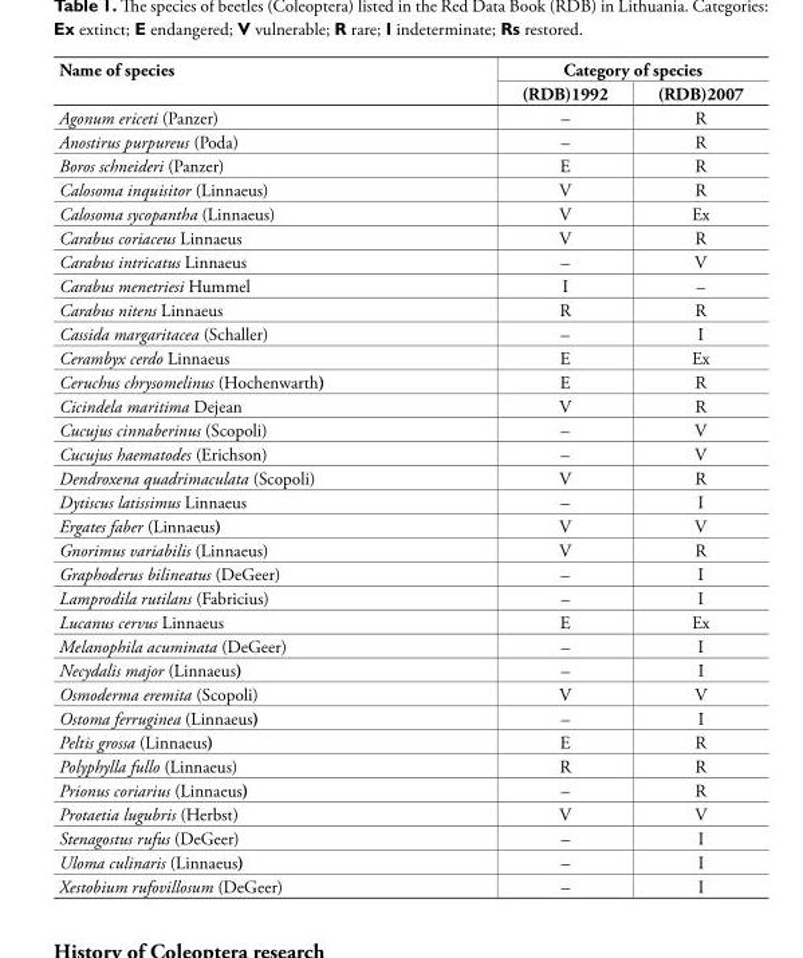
<table><thead><tr><td rowspan="2">Name of species</td><td colspan="2">Category of species</td></tr><tr><td>(RDB)1992</td><td>(RDB)2007</td></tr></thead><tbody><tr><td>Agonum ericeti (Panzer)</td><td>–</td><td>R</td></tr><tr><td>Anostirus purpureus (Poda)</td><td>–</td><td>R</td></tr><tr><td>Boros schneideri (Panzer)</td><td>E</td><td>R</td></tr><tr><td>Calosoma inquisitor (Linnaeus)</td><td>V</td><td>R</td></tr><tr><td>Calosoma sycopantha (Linnaeus)</td><td>V</td><td>Ex</td></tr><tr><td>Carabus coriaceus Linnaeus</td><td>V</td><td>R</td></tr><tr><td>Carabus intricatus Linnaeus</td><td>–</td><td>V</td></tr><tr><td>Carabus menetriesi Hummel</td><td>I</td><td>–</td></tr><tr><td>Carabus nitens Linnaeus</td><td>R</td><td>R</td></tr><tr><td>Cassida margaritacea (Schaller)</td><td>–</td><td>I</td></tr><tr><td>Cerambyx cerdo Linnaeus</td><td>E</td><td>Ex</td></tr><tr><td>Ceruchus chrysomelinus (Hochenwarth)</td><td>E</td><td>R</td></tr><tr><td>Cicindela maritima Dejean</td><td>V</td><td>R</td></tr><tr><td>Cucujus cinnaberinus (Scopoli)</td><td>–</td><td>V</td></tr><tr><td>Cucujus haematodes (Erichson)</td><td>–</td><td>V</td></tr><tr><td>Dendroxena quadrimaculata (Scopoli)</td><td>V</td><td>R</td></tr><tr><td>Dytiscus latissimus Linnaeus</td><td>–</td><td>I</td></tr><tr><td>Ergates faber (Linnaeus)</td><td>V</td><td>V</td></tr><tr><td>Gnorimus variabilis (Linnaeus)</td><td>V</td><td>R</td></tr><tr><td>Graphoderus bilineatus (DeGeer)</td><td>–</td><td>I</td></tr><tr><td>Lamprodila rutilans (Fabricius)</td><td>–</td><td>I</td></tr><tr><td>Lucanus cervus Linnaeus</td><td>E</td><td>Ex</td></tr><tr><td>Melanophila acuminata (DeGeer)</td><td>–</td><td>I</td></tr><tr><td>Necydalis major (Linnaeus)</td><td>–</td><td>I</td></tr><tr><td>Osmoderma eremita (Scopoli)</td><td>V</td><td>V</td></tr><tr><td>Ostoma ferruginea (Linnaeus)</td><td>–</td><td>I</td></tr><tr><td>Peltis grossa (Linnaeus)</td><td>E</td><td>R</td></tr><tr><td>Polyphylla fullo (Linnaeus)</td><td>R</td><td>R</td></tr><tr><td>Prionus coriarius (Linnaeus)</td><td>–</td><td>R</td></tr><tr><td>Protaetia lugubris (Herbst)</td><td>V</td><td>V</td></tr><tr><td>Stenagostus rufus (DeGeer)</td><td>–</td><td>I</td></tr><tr><td>Uloma culinaris (Linnaeus)</td><td>–</td><td>I</td></tr><tr><td>Xestobium rufovillosum (DeGeer)</td><td>–</td><td>I</td></tr></tbody></table>